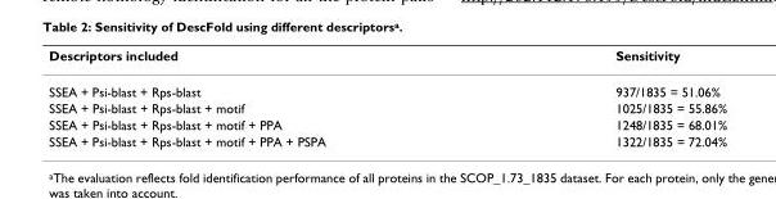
<table><thead><tr><td>Descriptors included</td><td>Sensitivity</td></tr></thead><tbody><tr><td>SSEA + Psi-blast + Rps-blast</td><td>937/1835 = 51.06%</td></tr><tr><td>SSEA + Psi-blast + Rps-blast + motif</td><td>1025/1835 = 55.86%</td></tr><tr><td>SSEA + Psi-blast + Rps-blast + motif + PPA</td><td>1248/1835 = 68.01%</td></tr><tr><td>SSEA + Psi-blast + Rps-blast + motif + PPA + PSPA</td><td>1322/1835 = 72.04%</td></tr></tbody></table>